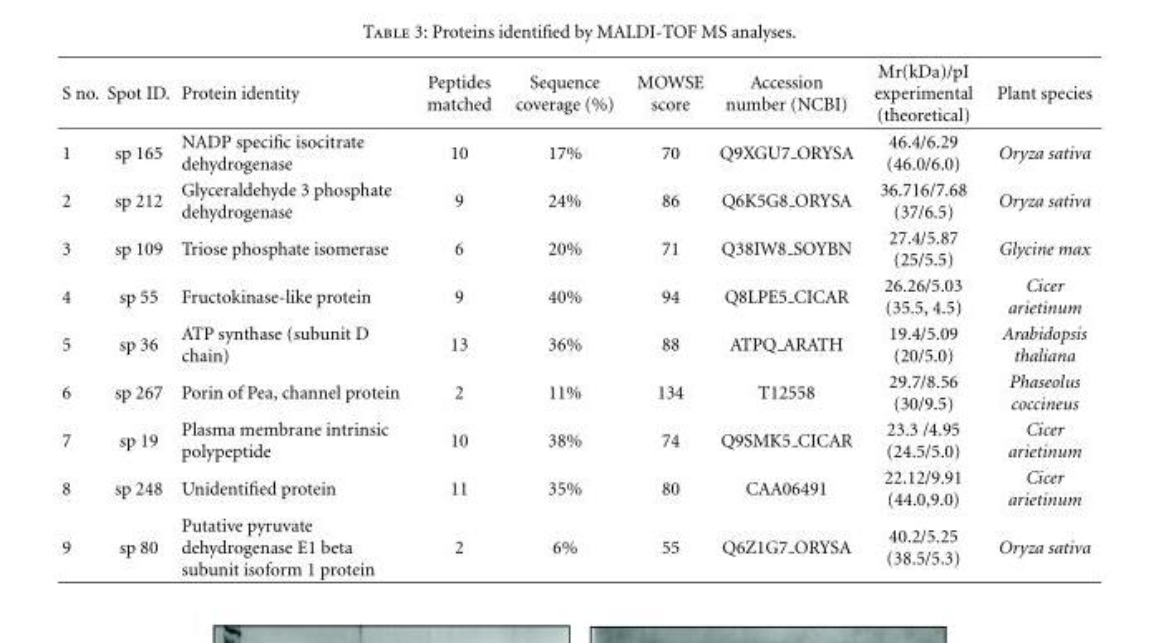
<table><thead><tr><td>S no.</td><td>Spot ID.</td><td>Protein identity</td><td>Peptides matched</td><td>Sequence coverage (%)</td><td>MOWSE score</td><td>Accession number (NCBI)</td><td>Mr(kDa)/pI experimental (theoretical)</td><td>Plant species</td></tr></thead><tbody><tr><td>1</td><td>sp 165</td><td>NADP specific isocitrate dehydrogenase</td><td>10</td><td>17%</td><td>70</td><td>Q9XGU7 ORYSA</td><td>46.4/6.29 (46.0/6.0)</td><td>Oryza sativa</td></tr><tr><td>2</td><td>sp 212</td><td>Glyceraldehyde 3 phosphate dehydrogenase</td><td>9</td><td>24%</td><td>86</td><td>Q6K5G8 ORYSA</td><td>36.716/7.68 (37/6.5)</td><td>Oryza sativa</td></tr><tr><td>3</td><td>sp 109</td><td>Triose phosphate isomerase</td><td>6</td><td>20%</td><td>71</td><td>Q38IW8 SOYBN</td><td>27.4/5.87 (25/5.5)</td><td>Glycine max</td></tr><tr><td>4</td><td>sp 55</td><td>Fructokinase-like protein</td><td>9</td><td>40%</td><td>94</td><td>Q8LPE5 CICAR</td><td>26.26/5.03 (35.5, 4.5)</td><td>Cicer arietinum</td></tr><tr><td>5</td><td>sp 36</td><td>ATP synthase (subunit D chain)</td><td>13</td><td>36%</td><td>88</td><td>ATPQ ARATH</td><td>19.4/5.09 (20/5.0)</td><td>Arabidopsis thaliana</td></tr><tr><td>6</td><td>sp 267</td><td>Porin of Pea, channel protein</td><td>2</td><td>11%</td><td>134</td><td>T12558</td><td>29.7/8.56 (30/9.5)</td><td>Phaseolus coccineus</td></tr><tr><td>7</td><td>sp 19</td><td>Plasma membrane intrinsic polypeptide</td><td>10</td><td>38%</td><td>74</td><td>Q9SMK5 CICAR</td><td>23.3 /4.95 (24.5/5.0)</td><td>Cicer arietinum</td></tr><tr><td>8</td><td>sp 248</td><td>Unidentified protein</td><td>11</td><td>35%</td><td>80</td><td>CAA06491</td><td>22.12/9.91 (44.0,9.0)</td><td>Cicer arietinum</td></tr><tr><td>9</td><td>sp 80</td><td>Putative pyruvate dehydrogenase E1 beta subunit isoform 1 protein</td><td>2</td><td>6%</td><td>55</td><td>Q6Z1G7 ORYSA</td><td>40.2/5.25 (38.5/5.3)</td><td>Oryza sativa</td></tr></tbody></table>